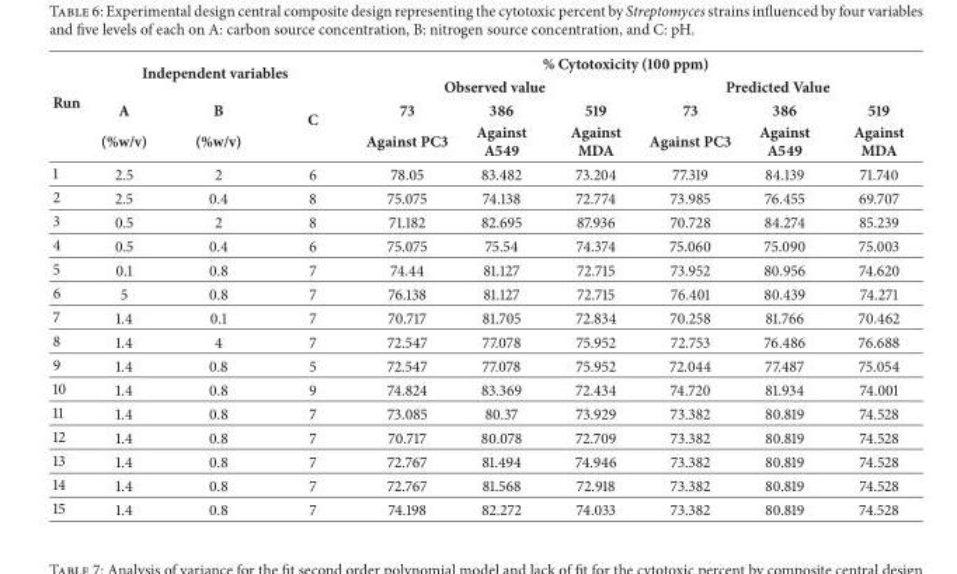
<table><thead><tr><td rowspan="4">Run</td><td rowspan="2" colspan="3">Independent variables</td><td colspan="6">% Cytotoxicity (100 ppm)</td></tr><tr><td colspan="3">Observed value</td><td colspan="3">Predicted Value</td></tr><tr><td rowspan="2">A (%w/v)</td><td rowspan="2">B (%w/v)</td><td rowspan="2">C</td><td rowspan="2">73 Against PC3</td><td rowspan="2">386 Against A549</td><td rowspan="2">519 Against MDA</td><td rowspan="2">73 Against PC3</td><td rowspan="2">386 Against A549</td><td rowspan="2">519 Against MDA</td></tr><tr></tr></thead><tbody><tr><td>1</td><td>2.5</td><td>2</td><td>6</td><td>78.05</td><td>83.482</td><td>73.204</td><td>77.319</td><td>84.139</td><td>71.740</td></tr><tr><td>2</td><td>2.5</td><td>0.4</td><td>8</td><td>75.075</td><td>74.138</td><td>72.774</td><td>73.985</td><td>76.455</td><td>69.707</td></tr><tr><td>3</td><td>0.5</td><td>2</td><td>8</td><td>71.182</td><td>82.695</td><td>87.936</td><td>70.728</td><td>84.274</td><td>85.239</td></tr><tr><td>4</td><td>0.5</td><td>0.4</td><td>6</td><td>75.075</td><td>75.54</td><td>74.374</td><td>75.060</td><td>75.090</td><td>75.003</td></tr><tr><td>5</td><td>0.1</td><td>0.8</td><td>7</td><td>74.44</td><td>81.127</td><td>72.715</td><td>73.952</td><td>80.956</td><td>74.620</td></tr><tr><td>6</td><td>5</td><td>0.8</td><td>7</td><td>76.138</td><td>81.127</td><td>72.715</td><td>76.401</td><td>80.439</td><td>74.271</td></tr><tr><td>7</td><td>1.4</td><td>0.1</td><td>7</td><td>70.717</td><td>81.705</td><td>72.834</td><td>70.258</td><td>81.766</td><td>70.462</td></tr><tr><td>8</td><td>1.4</td><td>4</td><td>7</td><td>72.547</td><td>77.078</td><td>75.952</td><td>72.753</td><td>76.486</td><td>76.688</td></tr><tr><td>9</td><td>1.4</td><td>0.8</td><td>5</td><td>72.547</td><td>77.078</td><td>75.952</td><td>72.044</td><td>77.487</td><td>75.054</td></tr><tr><td>10</td><td>1.4</td><td>0.8</td><td>9</td><td>74.824</td><td>83.369</td><td>72.434</td><td>74.720</td><td>81.934</td><td>74.001</td></tr><tr><td>11</td><td>1.4</td><td>0.8</td><td>7</td><td>73.085</td><td>80.37</td><td>73.929</td><td>73.382</td><td>80.819</td><td>74.528</td></tr><tr><td>12</td><td>1.4</td><td>0.8</td><td>7</td><td>70.717</td><td>80.078</td><td>72.709</td><td>73.382</td><td>80.819</td><td>74.528</td></tr><tr><td>13</td><td>1.4</td><td>0.8</td><td>7</td><td>72.767</td><td>81.494</td><td>74.946</td><td>73.382</td><td>80.819</td><td>74.528</td></tr><tr><td>14</td><td>1.4</td><td>0.8</td><td>7</td><td>72.767</td><td>81.568</td><td>72.918</td><td>73.382</td><td>80.819</td><td>74.528</td></tr><tr><td>15</td><td>1.4</td><td>0.8</td><td>7</td><td>74.198</td><td>82.272</td><td>74.033</td><td>73.382</td><td>80.819</td><td>74.528</td></tr></tbody></table>